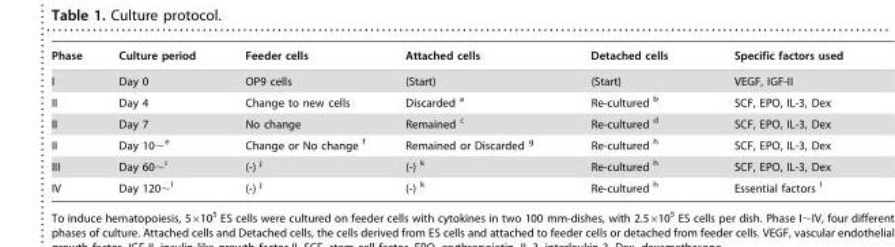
<table><thead><tr><td>Phase</td><td>Culture period</td><td>Feeder cells</td><td>Attached cells</td><td>Detached cells</td><td>Specific factors used</td></tr></thead><tbody><tr><td>I</td><td>Day 0</td><td>OP9 cells</td><td>(Start)</td><td>(Start)</td><td>VEGF, IGF-II</td></tr><tr><td>II</td><td>Day 4</td><td>Change to new cells</td><td>Discarded <sup>a</sup></td><td>Re-cultured <sup>b</sup></td><td>SCF, EPO, IL-3, Dex</td></tr><tr><td>II</td><td>Day 7</td><td>No change</td><td>Remained <sup>c</sup></td><td>Re-cultured <sup>d</sup></td><td>SCF, EPO, IL-3, Dex</td></tr><tr><td>II</td><td>Day 10∼<sup>e</sup></td><td>Change or No change <sup>f</sup></td><td>Remained or Discarded <sup>g</sup></td><td>Re-cultured <sup>h</sup></td><td>SCF, EPO, IL-3, Dex</td></tr><tr><td>III</td><td>Day 60∼<sup>i</sup></td><td>(-) j</td><td>(-) k</td><td>Re-cultured <sup>h</sup></td><td>SCF, EPO, IL-3, Dex</td></tr><tr><td>IV</td><td>Day 120∼<sup>l</sup></td><td>(-) j</td><td>(-) k</td><td>Re-cultured <sup>h</sup></td><td>Essential factors <sup>l</sup></td></tr></tbody></table>